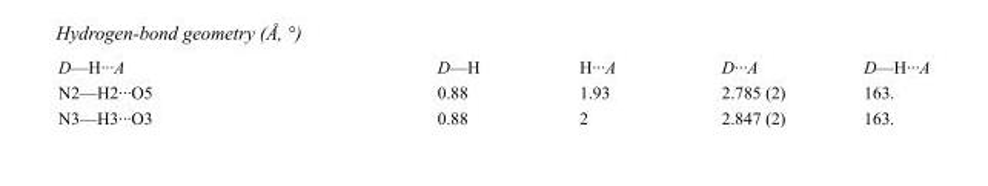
<table><tbody><tr><td>D—H···A</td><td>D—H</td><td>H···A</td><td>D···A</td><td>D—H···A</td></tr><tr><td>N2—H2···O5</td><td>0.88</td><td>1.93</td><td>2.785 (2)</td><td>163.</td></tr><tr><td>N3—H3···O3</td><td>0.88</td><td>2</td><td>2.847 (2)</td><td>163.</td></tr></tbody></table>